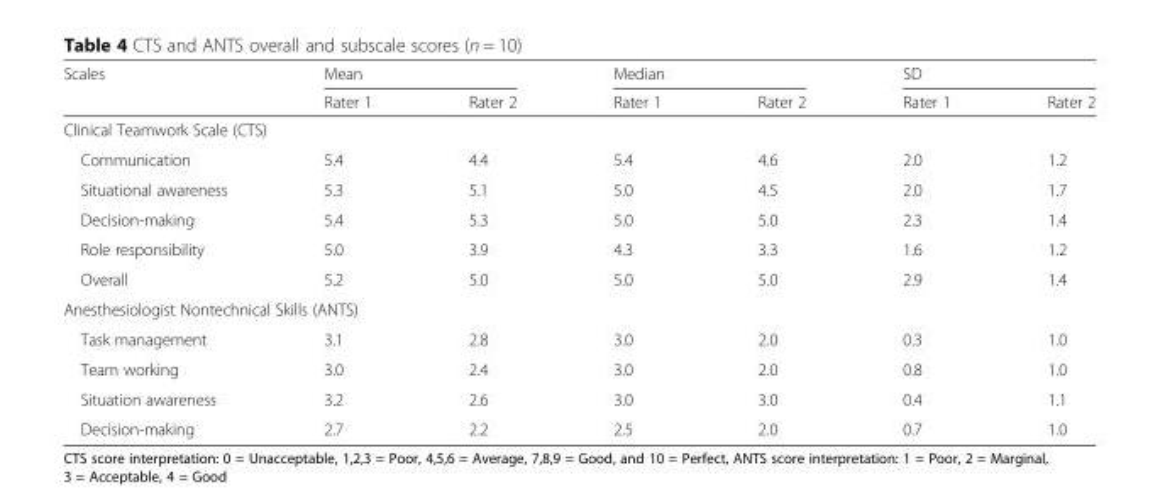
<table><thead><tr><td rowspan="2">Scales</td><td colspan="2">Mean</td><td colspan="2">Median</td><td colspan="2">SD</td></tr><tr><td>Rater 1</td><td>Rater 2</td><td>Rater 1</td><td>Rater 2</td><td>Rater 1</td><td>Rater 2</td></tr></thead><tbody><tr><td colspan="7">Clinical Teamwork Scale (CTS)</td></tr><tr><td>Communication</td><td>5.4</td><td>4.4</td><td>5.4</td><td>4.6</td><td>2.0</td><td>1.2</td></tr><tr><td>Situational awareness</td><td>5.3</td><td>5.1</td><td>5.0</td><td>4.5</td><td>2.0</td><td>1.7</td></tr><tr><td>Decision-making</td><td>5.4</td><td>5.3</td><td>5.0</td><td>5.0</td><td>2.3</td><td>1.4</td></tr><tr><td>Role responsibility</td><td>5.0</td><td>3.9</td><td>4.3</td><td>3.3</td><td>1.6</td><td>1.2</td></tr><tr><td>Overall</td><td>5.2</td><td>5.0</td><td>5.0</td><td>5.0</td><td>2.9</td><td>1.4</td></tr><tr><td colspan="7">Anesthesiologist Nontechnical Skills (ANTS)</td></tr><tr><td>Task management</td><td>3.1</td><td>2.8</td><td>3.0</td><td>2.0</td><td>0.3</td><td>1.0</td></tr><tr><td>Team working</td><td>3.0</td><td>2.4</td><td>3.0</td><td>2.0</td><td>0.8</td><td>1.0</td></tr><tr><td>Situation awareness</td><td>3.2</td><td>2.6</td><td>3.0</td><td>3.0</td><td>0.4</td><td>1.1</td></tr><tr><td>Decision-making</td><td>2.7</td><td>2.2</td><td>2.5</td><td>2.0</td><td>0.7</td><td>1.0</td></tr></tbody></table>